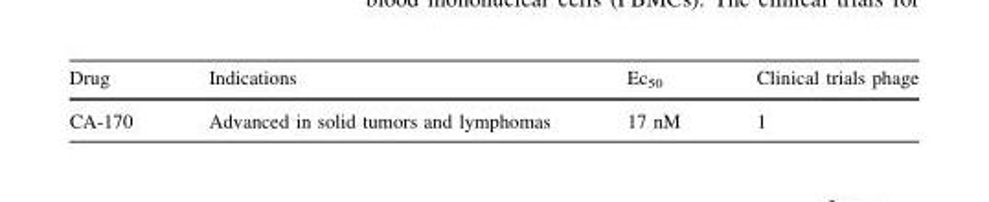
<table><thead><tr><td>Drug</td><td>Indications</td><td>Ec<sub>50</sub></td><td>Clinical trials phage</td></tr></thead><tbody><tr><td>CA-170</td><td>Advanced in solid tumors and lymphomas</td><td>17 nM</td><td>1</td></tr></tbody></table>